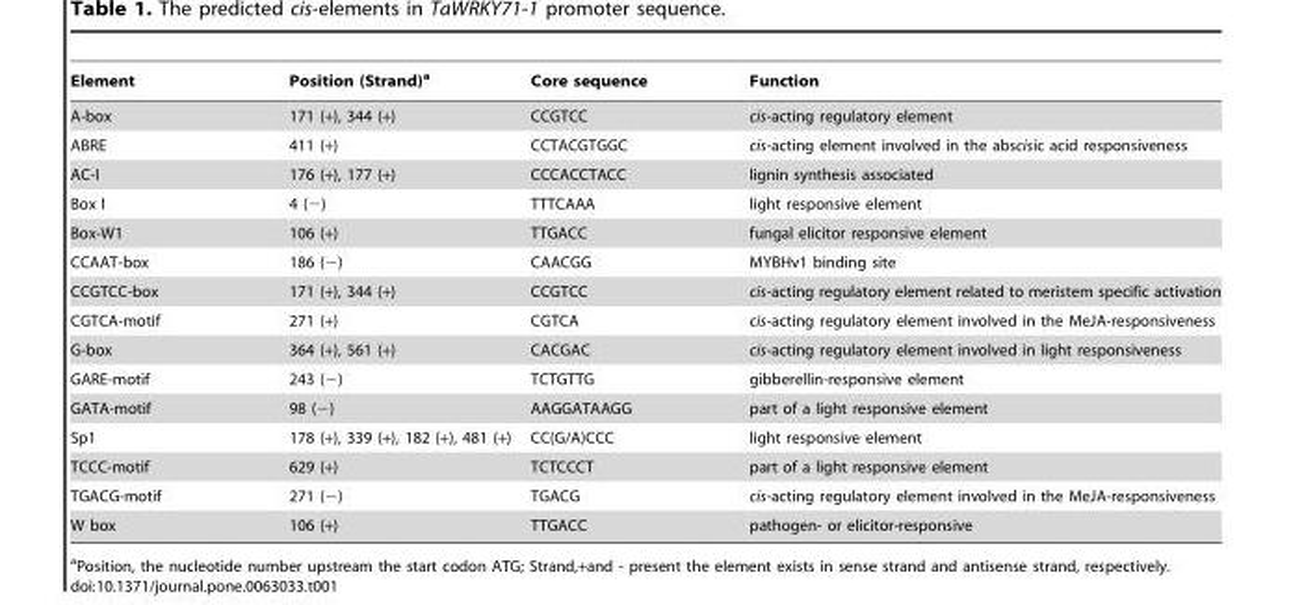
<table><thead><tr><td>Element</td><td>Position (Strand)<sup>a</sup></td><td>Core sequence</td><td>Function</td></tr></thead><tbody><tr><td>A-box</td><td>171 (+), 344 (+)</td><td>CCGTCC</td><td>cis-acting regulatory element</td></tr><tr><td>ABRE</td><td>411 (+)</td><td>CCTACGTGGC</td><td>cis-acting element involved in the abscisic acid responsiveness</td></tr><tr><td>AC-I</td><td>176 (+), 177 (+)</td><td>CCCACCTACC</td><td>lignin synthesis associated</td></tr><tr><td>Box I</td><td>4 (−)</td><td>TTTCAAA</td><td>light responsive element</td></tr><tr><td>Box-W1</td><td>106 (+)</td><td>TTGACC</td><td>fungal elicitor responsive element</td></tr><tr><td>CCAAT-box</td><td>186 (−)</td><td>CAACGG</td><td>MYBHv1 binding site</td></tr><tr><td>CCGTCC-box</td><td>171 (+), 344 (+)</td><td>CCGTCC</td><td>cis-acting regulatory element related to meristem specific activation</td></tr><tr><td>CGTCA-motif</td><td>271 (+)</td><td>CGTCA</td><td>cis-acting regulatory element involved in the MeJA-responsiveness</td></tr><tr><td>G-box</td><td>364 (+), 561 (+)</td><td>CACGAC</td><td>cis-acting regulatory element involved in light responsiveness</td></tr><tr><td>GARE-motif</td><td>243 (−)</td><td>TCTGTTG</td><td>gibberellin-responsive element</td></tr><tr><td>GATA-motif</td><td>98 (−)</td><td>AAGGATAAGG</td><td>part of a light responsive element</td></tr><tr><td>Sp1</td><td>178 (+), 339 (+), 182 (+), 481 (+)</td><td>CC(G/A)CCC</td><td>light responsive element</td></tr><tr><td>TCCC-motif</td><td>629 (+)</td><td>TCTCCCT</td><td>part of a light responsive element</td></tr><tr><td>TGACG-motif</td><td>271 (−)</td><td>TGACG</td><td>cis-acting regulatory element involved in the MeJA-responsiveness</td></tr><tr><td>W box</td><td>106 (+)</td><td>TTGACC</td><td>pathogen- or elicitor-responsive</td></tr></tbody></table>